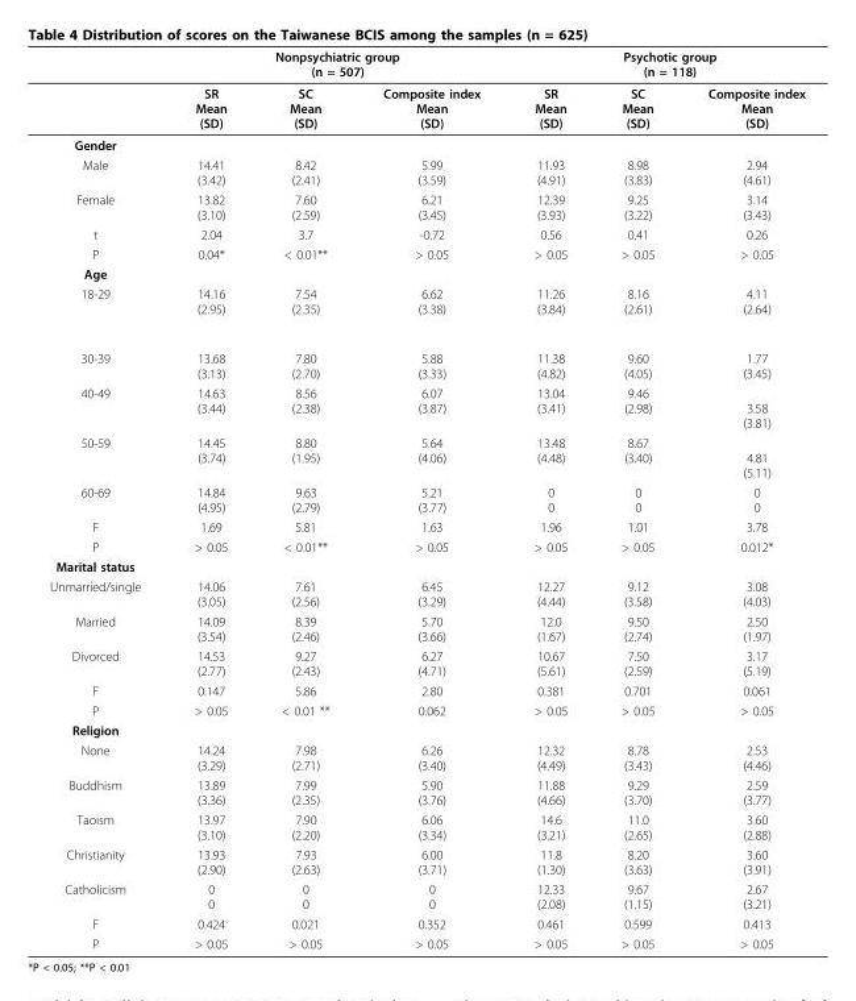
<table><thead><tr><td rowspan="2"></td><td colspan="3">Nonpsychiatric group (n = 507)</td><td colspan="3">Psychotic group (n = 118)</td></tr><tr><td>SR Mean (SD)</td><td>SC Mean (SD)</td><td>Composite index Mean (SD)</td><td>SR Mean (SD)</td><td>SC Mean (SD)</td><td>Composite index Mean (SD)</td></tr></thead><tbody><tr><td colspan="7">Gender</td></tr><tr><td>Male</td><td>14.41 (3.42)</td><td>8.42 (2.41)</td><td>5.99 (3.59)</td><td>11.93 (4.91)</td><td>8.98 (3.83)</td><td>2.94 (4.61)</td></tr><tr><td>Female</td><td>13.82 (3.10)</td><td>7.60 (2.59)</td><td>6.21 (3.45)</td><td>12.39 (3.93)</td><td>9.25 (3.22)</td><td>3.14 (3.43)</td></tr><tr><td>t</td><td>2.04</td><td>3.7</td><td>-0.72</td><td>0.56</td><td>0.41</td><td>0.26</td></tr><tr><td>P</td><td>0.04*</td><td>&lt; 0.01**</td><td>&gt; 0.05</td><td>&gt; 0.05</td><td>&gt; 0.05</td><td>&gt; 0.05</td></tr><tr><td colspan="7">Age</td></tr><tr><td>18-29</td><td>14.16 (2.95)</td><td>7.54 (2.35)</td><td>6.62 (3.38)</td><td>11.26 (3.84)</td><td>8.16 (2.61)</td><td>4.11 (2.64)</td></tr><tr><td>30-39</td><td>13.68 (3.13)</td><td>7.80 (2.70)</td><td>5.88 (3.33)</td><td>11.38 (4.82)</td><td>9.60 (4.05)</td><td>1.77 (3.45)</td></tr><tr><td>40-49</td><td>14.63 (3.44)</td><td>8.56 (2.38)</td><td>6.07 (3.87)</td><td>13.04 (3.41)</td><td>9.46 (2.98)</td><td>3.58 (3.81)</td></tr><tr><td>50-59</td><td>14.45 (3.74)</td><td>8.80 (1.95)</td><td>5.64 (4.06)</td><td>13.48 (4.48)</td><td>8.67 (3.40)</td><td>4.81 (5.11)</td></tr><tr><td>60-69</td><td>14.84 (4.95)</td><td>9.63 (2.79)</td><td>5.21 (3.77)</td><td>0 0</td><td>0 0</td><td>0 0</td></tr><tr><td>F</td><td>1.69</td><td>5.81</td><td>1.63</td><td>1.96</td><td>1.01</td><td>3.78</td></tr><tr><td>P</td><td>&gt; 0.05</td><td>&lt; 0.01**</td><td>&gt; 0.05</td><td>&gt; 0.05</td><td>&gt; 0.05</td><td>0.012*</td></tr><tr><td colspan="7">Marital status</td></tr><tr><td>Unmarried/single</td><td>14.06 (3.05)</td><td>7.61 (2.56)</td><td>6.45 (3.29)</td><td>12.27 (4.44)</td><td>9.12 (3.58)</td><td>3.08 (4.03)</td></tr><tr><td>Married</td><td>14.09 (3.54)</td><td>8.39 (2.46)</td><td>5.70 (3.66)</td><td>12.0 (1.67)</td><td>9.50 (2.74)</td><td>2.50 (1.97)</td></tr><tr><td>Divorced</td><td>14.53 (2.77)</td><td>9.27 (2.43)</td><td>6.27 (4.71)</td><td>10.67 (5.61)</td><td>7.50 (2.59)</td><td>3.17 (5.19)</td></tr><tr><td>F</td><td>0.147</td><td>5.86</td><td>2.80</td><td>0.381</td><td>0.701</td><td>0.061</td></tr><tr><td>P</td><td>&gt; 0.05</td><td>&lt; 0.01 **</td><td>0.062</td><td>&gt; 0.05</td><td>&gt; 0.05</td><td>&gt; 0.05</td></tr><tr><td colspan="7">Religion</td></tr><tr><td>None</td><td>14.24 (3.29)</td><td>7.98 (2.71)</td><td>6.26 (3.40)</td><td>12.32 (4.49)</td><td>8.78 (3.43)</td><td>2.53 (4.46)</td></tr><tr><td>Buddhism</td><td>13.89 (3.36)</td><td>7.99 (2.35)</td><td>5.90 (3.76)</td><td>11.88 (4.66)</td><td>9.29 (3.70)</td><td>2.59 (3.77)</td></tr><tr><td>Taoism</td><td>13.97 (3.10)</td><td>7.90 (2.20)</td><td>6.06 (3.34)</td><td>14.6 (3.21)</td><td>11.0 (2.65)</td><td>3.60 (2.88)</td></tr><tr><td>Christianity</td><td>13.93 (2.90)</td><td>7.93 (2.63)</td><td>6.00 (3.71)</td><td>11.8 (1.30)</td><td>8.20 (3.63)</td><td>3.60 (3.91)</td></tr><tr><td>Catholicism</td><td>0 0</td><td>0 0</td><td>0 0</td><td>12.33 (2.08)</td><td>9.67 (1.15)</td><td>2.67 (3.21)</td></tr><tr><td>F</td><td>0.424</td><td>0.021</td><td>0.352</td><td>0.461</td><td>0.599</td><td>0.413</td></tr><tr><td>P</td><td>&gt; 0.05</td><td>&gt; 0.05</td><td>&gt; 0.05</td><td>&gt; 0.05</td><td>&gt; 0.05</td><td>&gt; 0.05</td></tr></tbody></table>